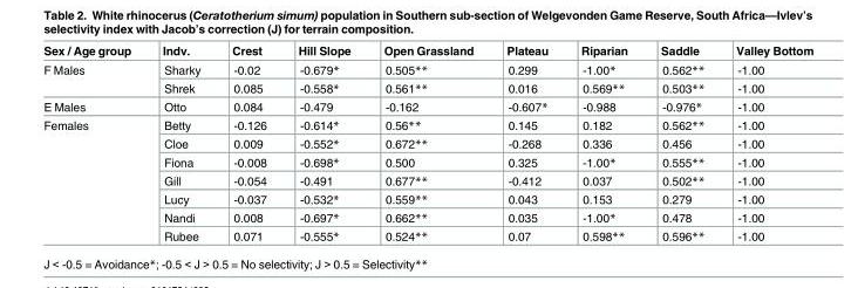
<table><thead><tr><td>Sex / Age group</td><td>Indv.</td><td>Crest</td><td>Hill Slope</td><td>Open Grassland</td><td>Plateau</td><td>Riparian</td><td>Saddle</td><td>Valley Bottom</td></tr></thead><tbody><tr><td rowspan="2">F Males</td><td>Sharky</td><td>-0.02</td><td>-0.679*</td><td>0.505**</td><td>0.299</td><td>-1.00*</td><td>0.562**</td><td>-1.00</td></tr><tr><td>Shrek</td><td>0.085</td><td>-0.558*</td><td>0.561**</td><td>0.016</td><td>0.569**</td><td>0.503**</td><td>-1.00</td></tr><tr><td>E Males</td><td>Otto</td><td>0.084</td><td>-0.479</td><td>-0.162</td><td>-0.607*</td><td>-0.988</td><td>-0.976*</td><td>-1.00</td></tr><tr><td rowspan="7">Females</td><td>Betty</td><td>-0.126</td><td>-0.614*</td><td>0.56**</td><td>0.145</td><td>0.182</td><td>0.562**</td><td>-1.00</td></tr><tr><td>Cloe</td><td>0.009</td><td>-0.552*</td><td>0.672**</td><td>-0.268</td><td>0.336</td><td>0.456</td><td>-1.00</td></tr><tr><td>Fiona</td><td>-0.008</td><td>-0.698*</td><td>0.500</td><td>0.325</td><td>-1.00*</td><td>0.555**</td><td>-1.00</td></tr><tr><td>Gill</td><td>-0.054</td><td>-0.491</td><td>0.677**</td><td>-0.412</td><td>0.037</td><td>0.502**</td><td>-1.00</td></tr><tr><td>Lucy</td><td>-0.037</td><td>-0.532*</td><td>0.559**</td><td>0.043</td><td>0.153</td><td>0.279</td><td>-1.00</td></tr><tr><td>Nandi</td><td>0.008</td><td>-0.697*</td><td>0.662**</td><td>0.035</td><td>-1.00*</td><td>0.478</td><td>-1.00</td></tr><tr><td>Rubee</td><td>0.071</td><td>-0.555*</td><td>0.524**</td><td>0.07</td><td>0.598**</td><td>0.596**</td><td>-1.00</td></tr></tbody></table>